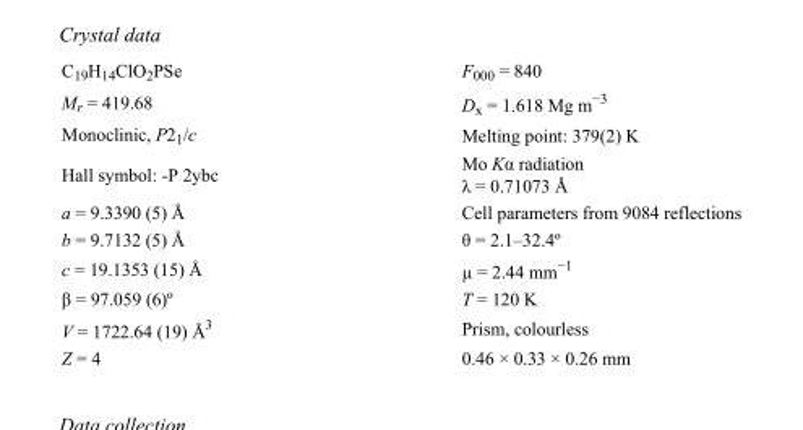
<table><tbody><tr><td>C<sub>19</sub>H<sub>14</sub>ClO<sub>2</sub>PSe</td><td>F000 = 840</td></tr><tr><td>M<sub>r</sub> = 419.68</td><td>D<sub>x</sub> = 1.618 Mg m<sup>−3</sup></td></tr><tr><td>Monoclinic, P2<sub>1</sub>/c</td><td>Melting point: 379(2) K</td></tr><tr><td>Hall symbol: -P 2ybc</td><td>Mo Kα radiation λ = 0.71073 Å</td></tr><tr><td>a = 9.3390 (5) Å</td><td>Cell parameters from 9084 reflections</td></tr><tr><td>b = 9.7132 (5) Å</td><td>θ = 2.1–32.4º</td></tr><tr><td>c = 19.1353 (15) Å</td><td>µ = 2.44 mm<sup>−1</sup></td></tr><tr><td>β = 97.059 (6)º</td><td>T = 120 K</td></tr><tr><td>V = 1722.64 (19) Å<sup>3</sup></td><td>Prism, colourless</td></tr><tr><td>Z = 4</td><td>0.46 × 0.33 × 0.26 mm</td></tr></tbody></table>